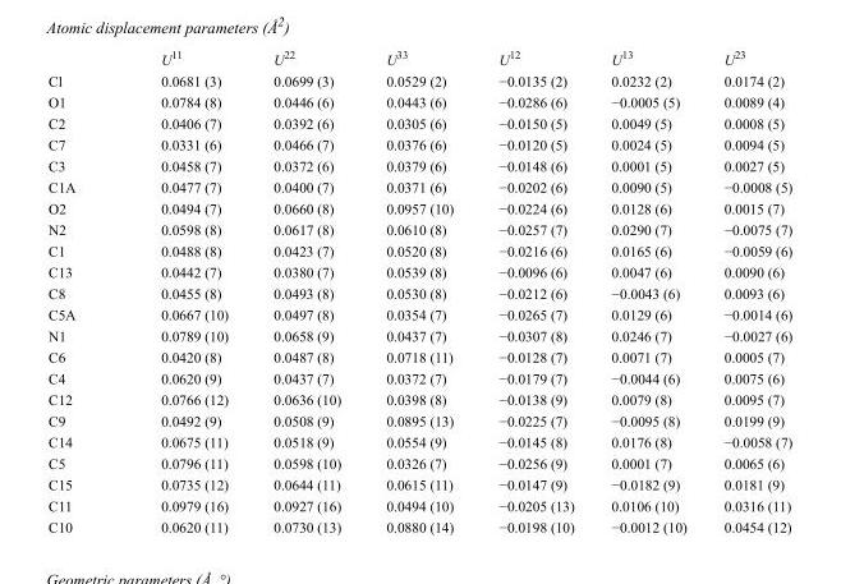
<table><thead><tr><td></td><td>U<sup>11</sup></td><td>U<sup>22</sup></td><td>U<sup>33</sup></td><td>U<sup>12</sup></td><td>U<sup>13</sup></td><td>U<sup>23</sup></td></tr></thead><tbody><tr><td>Cl</td><td>0.0681 (3)</td><td>0.0699 (3)</td><td>0.0529 (2)</td><td>−0.0135 (2)</td><td>0.0232 (2)</td><td>0.0174 (2)</td></tr><tr><td>O1</td><td>0.0784 (8)</td><td>0.0446 (6)</td><td>0.0443 (6)</td><td>−0.0286 (6)</td><td>−0.0005 (5)</td><td>0.0089 (4)</td></tr><tr><td>C2</td><td>0.0406 (7)</td><td>0.0392 (6)</td><td>0.0305 (6)</td><td>−0.0150 (5)</td><td>0.0049 (5)</td><td>0.0008 (5)</td></tr><tr><td>C7</td><td>0.0331 (6)</td><td>0.0466 (7)</td><td>0.0376 (6)</td><td>−0.0120 (5)</td><td>0.0024 (5)</td><td>0.0094 (5)</td></tr><tr><td>C3</td><td>0.0458 (7)</td><td>0.0372 (6)</td><td>0.0379 (6)</td><td>−0.0148 (6)</td><td>0.0001 (5)</td><td>0.0027 (5)</td></tr><tr><td>C1A</td><td>0.0477 (7)</td><td>0.0400 (7)</td><td>0.0371 (6)</td><td>−0.0202 (6)</td><td>0.0090 (5)</td><td>−0.0008 (5)</td></tr><tr><td>O2</td><td>0.0494 (7)</td><td>0.0660 (8)</td><td>0.0957 (10)</td><td>−0.0224 (6)</td><td>0.0128 (6)</td><td>0.0015 (7)</td></tr><tr><td>N2</td><td>0.0598 (8)</td><td>0.0617 (8)</td><td>0.0610 (8)</td><td>−0.0257 (7)</td><td>0.0290 (7)</td><td>−0.0075 (7)</td></tr><tr><td>C1</td><td>0.0488 (8)</td><td>0.0423 (7)</td><td>0.0520 (8)</td><td>−0.0216 (6)</td><td>0.0165 (6)</td><td>−0.0059 (6)</td></tr><tr><td>C13</td><td>0.0442 (7)</td><td>0.0380 (7)</td><td>0.0539 (8)</td><td>−0.0096 (6)</td><td>0.0047 (6)</td><td>0.0090 (6)</td></tr><tr><td>C8</td><td>0.0455 (8)</td><td>0.0493 (8)</td><td>0.0530 (8)</td><td>−0.0212 (6)</td><td>−0.0043 (6)</td><td>0.0093 (6)</td></tr><tr><td>C5A</td><td>0.0667 (10)</td><td>0.0497 (8)</td><td>0.0354 (7)</td><td>−0.0265 (7)</td><td>0.0129 (6)</td><td>−0.0014 (6)</td></tr><tr><td>N1</td><td>0.0789 (10)</td><td>0.0658 (9)</td><td>0.0437 (7)</td><td>−0.0307 (8)</td><td>0.0246 (7)</td><td>−0.0027 (6)</td></tr><tr><td>C6</td><td>0.0420 (8)</td><td>0.0487 (8)</td><td>0.0718 (11)</td><td>−0.0128 (7)</td><td>0.0071 (7)</td><td>0.0005 (7)</td></tr><tr><td>C4</td><td>0.0620 (9)</td><td>0.0437 (7)</td><td>0.0372 (7)</td><td>−0.0179 (7)</td><td>−0.0044 (6)</td><td>0.0075 (6)</td></tr><tr><td>C12</td><td>0.0766 (12)</td><td>0.0636 (10)</td><td>0.0398 (8)</td><td>−0.0138 (9)</td><td>0.0079 (8)</td><td>0.0095 (7)</td></tr><tr><td>C9</td><td>0.0492 (9)</td><td>0.0508 (9)</td><td>0.0895 (13)</td><td>−0.0225 (7)</td><td>−0.0095 (8)</td><td>0.0199 (9)</td></tr><tr><td>C14</td><td>0.0675 (11)</td><td>0.0518 (9)</td><td>0.0554 (9)</td><td>−0.0145 (8)</td><td>0.0176 (8)</td><td>−0.0058 (7)</td></tr><tr><td>C5</td><td>0.0796 (11)</td><td>0.0598 (10)</td><td>0.0326 (7)</td><td>−0.0256 (9)</td><td>0.0001 (7)</td><td>0.0065 (6)</td></tr><tr><td>C15</td><td>0.0735 (12)</td><td>0.0644 (11)</td><td>0.0615 (11)</td><td>−0.0147 (9)</td><td>−0.0182 (9)</td><td>0.0181 (9)</td></tr><tr><td>C11</td><td>0.0979 (16)</td><td>0.0927 (16)</td><td>0.0494 (10)</td><td>−0.0205 (13)</td><td>0.0106 (10)</td><td>0.0316 (11)</td></tr><tr><td>C10</td><td>0.0620 (11)</td><td>0.0730 (13)</td><td>0.0880 (14)</td><td>−0.0198 (10)</td><td>−0.0012 (10)</td><td>0.0454 (12)</td></tr></tbody></table>